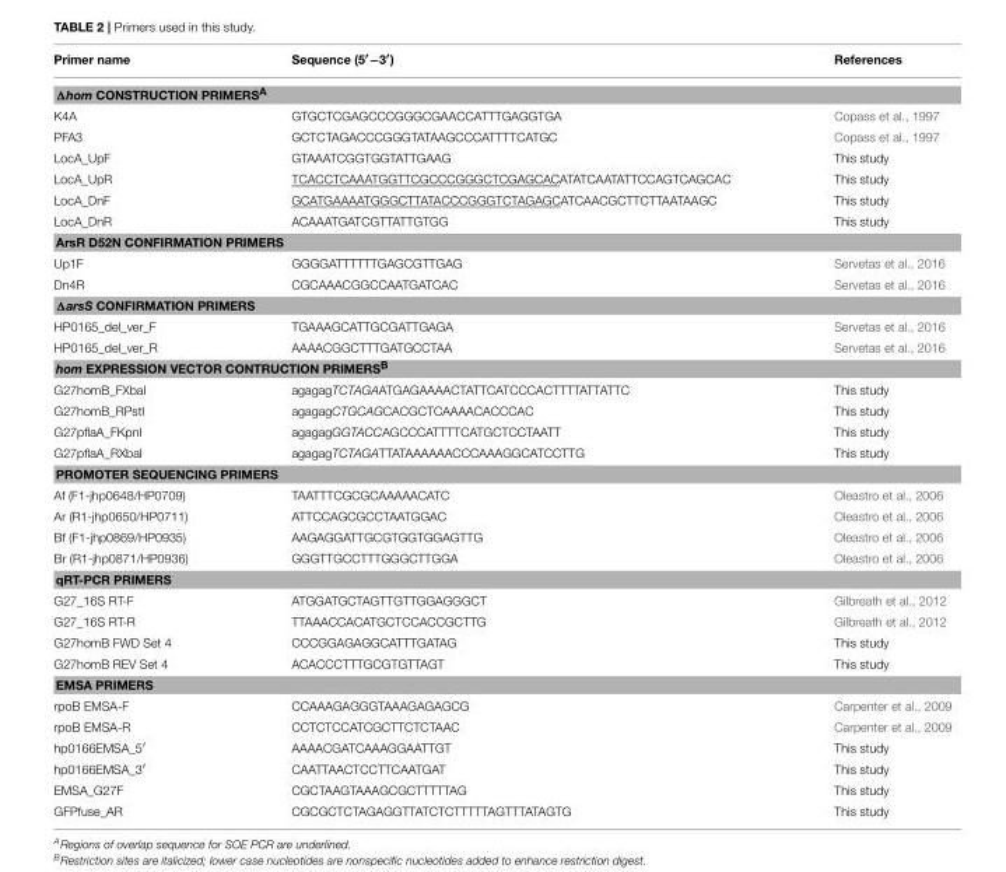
<table><thead><tr><td>Primer name</td><td>Sequence (5′−3′)</td><td>References</td></tr></thead><tbody><tr><td colspan="3">Δhom CONSTRUCTION PRIMERS<sup>A</sup></td></tr><tr><td>K4A</td><td>GTGCTCGAGCCCGGGCGAACCATTTGAGGTGA</td><td>Copass et al., 1997</td></tr><tr><td>PFA3</td><td>GCTCTAGACCCGGGTATAAGCCCATTTTCATGC</td><td>Copass et al., 1997</td></tr><tr><td>LocA_UpF</td><td>GTAAATCGGTGGTATTGAAG</td><td>This study</td></tr><tr><td>LocA_UpR</td><td>TCACCTCAAATGGTTCGCCCGGGCTCGAGCACATATCAATATTCCAGTCAGCAC</td><td>This study</td></tr><tr><td>LocA_DnF</td><td>GCATGAAAATGGGCTTATACCCGGGTCTAGAGCATCAACGCTTCTTAATAAGC</td><td>This study</td></tr><tr><td>LocA_DnR</td><td>ACAAATGATCGTTATTGTGG</td><td>This study</td></tr><tr><td colspan="3">ArsR D52N CONFIRMATION PRIMERS</td></tr><tr><td>Up1F</td><td>GGGGATTTTTTGAGCGTTGAG</td><td>Servetas et al., 2016</td></tr><tr><td>Dn4R</td><td>CGCAAACGGCCAATGATCAC</td><td>Servetas et al., 2016</td></tr><tr><td colspan="3">ΔarsS CONFIRMATION PRIMERS</td></tr><tr><td>HP0165_del_ver_F</td><td>TGAAAGCATTGCGATTGAGA</td><td>Servetas et al., 2016</td></tr><tr><td>HP0165_del_ver_R</td><td>AAAACGGCTTTGATGCCTAA</td><td>Servetas et al., 2016</td></tr><tr><td colspan="3">hom EXPRESSION VECTOR CONTRUCTION PRIMERS<sup>B</sup></td></tr><tr><td>G27homB_FXbaI</td><td>agagagTCTAGAATGAGAAAACTATTCATCCCACTTTTATTATTC</td><td>This study</td></tr><tr><td>G27homB_RPstI</td><td>agagagCTGCAGCACGCTCAAAACACCCAC</td><td>This study</td></tr><tr><td>G27pflaA_FKpnI</td><td>agagagGGTACCAGCCCATTTTCATGCTCCTAATT</td><td>This study</td></tr><tr><td>G27pflaA_RXbaI</td><td>agagagTCTAGATTATAAAAAACCCAAAGGCATCCTTG</td><td>This study</td></tr><tr><td colspan="3">PROMOTER SEQUENCING PRIMERS</td></tr><tr><td>Af (F1-jhp0648/HP0709)</td><td>TAATTTCGCGCAAAAACATC</td><td>Oleastro et al., 2006</td></tr><tr><td>Ar (R1-jhp0650/HP0711)</td><td>ATTCCAGCGCCTAATGGAC</td><td>Oleastro et al., 2006</td></tr><tr><td>Bf (F1-jhp0869/HP0935)</td><td>AAGAGGATTGCGTGGTGGAGTTG</td><td>Oleastro et al., 2006</td></tr><tr><td>Br (R1-jhp0871/HP0936)</td><td>GGGTTGCCTTTGGGCTTGGA</td><td>Oleastro et al., 2006</td></tr><tr><td colspan="3">qRT-PCR PRIMERS</td></tr><tr><td>G27_16S RT-F</td><td>ATGGATGCTAGTTGTTGGAGGGCT</td><td>Gilbreath et al., 2012</td></tr><tr><td>G27_16S RT-R</td><td>TTAAACCACATGCTCCACCGCTTG</td><td>Gilbreath et al., 2012</td></tr><tr><td>G27homB FWD Set 4</td><td>CCCGGAGAGGCATTTGATAG</td><td>This study</td></tr><tr><td>G27homB REV Set 4</td><td>ACACCCTTTGCGTGTTAGT</td><td>This study</td></tr><tr><td colspan="3">EMSA PRIMERS</td></tr><tr><td>rpoB EMSA-F</td><td>CCAAAGAGGGTAAAGAGAGCG</td><td>Carpenter et al., 2009</td></tr><tr><td>rpoB EMSA-R</td><td>CCTCTCCATCGCTTCTCTAAC</td><td>Carpenter et al., 2009</td></tr><tr><td>hp0166EMSA_5′</td><td>AAAACGATCAAAGGAATTGT</td><td>This study</td></tr><tr><td>hp0166EMSA_3′</td><td>CAATTAACTCCTTCAATGAT</td><td>This study</td></tr><tr><td>EMSA_G27F</td><td>CGCTAAGTAAAGCGCTTTTTAG</td><td>This study</td></tr><tr><td>GFPfuse_AR</td><td>CGCGCTCTAGAGGTTATCTCTTTTTAGTTTATAGTG</td><td>This study</td></tr></tbody></table>